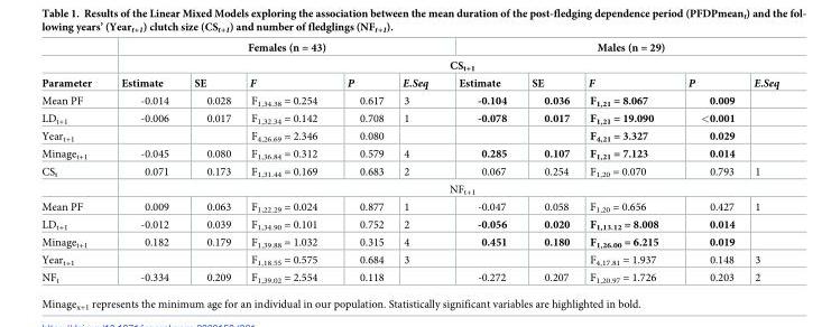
<table><thead><tr><td rowspan="3">Parameter</td><td colspan="5">Females (n = 43)</td><td colspan="5">Males (n = 29)</td></tr><tr><td colspan="10">CS<sub>t+1</sub></td></tr><tr><td>Estimate</td><td>SE</td><td>F</td><td>P</td><td>E.Seq</td><td>Estimate</td><td>SE</td><td>F</td><td>P</td><td>E.Seq</td></tr></thead><tbody><tr><td>Mean PF</td><td>-0.014</td><td>0.028</td><td>F<sub>1,34.38</sub> = 0.254</td><td>0.617</td><td>3</td><td>-0.104</td><td>0.036</td><td>F<sub>1,21</sub> = 8.067</td><td>0.009</td><td></td></tr><tr><td>LD<sub>t+1</sub></td><td>-0.006</td><td>0.017</td><td>F<sub>1,32.34</sub> = 0.142</td><td>0.708</td><td>1</td><td>-0.078</td><td>0.017</td><td>F<sub>1,21</sub> = 19.090</td><td>&lt;0.001</td><td></td></tr><tr><td>Year<sub>t+1</sub></td><td></td><td></td><td>F<sub>4,26.69</sub> = 2.346</td><td>0.080</td><td></td><td></td><td></td><td>F<sub>4,21</sub> = 3.327</td><td>0.029</td><td></td></tr><tr><td>Minage<sub>t+1</sub></td><td>-0.045</td><td>0.080</td><td>F<sub>1,36.84</sub> = 0.312</td><td>0.579</td><td>4</td><td>0.285</td><td>0.107</td><td>F<sub>1,21</sub> = 7.123</td><td>0.014</td><td></td></tr><tr><td rowspan="2">CS<sub>t</sub></td><td>0.071</td><td>0.173</td><td>F<sub>1,31.44</sub> = 0.169</td><td>0.683</td><td>2</td><td>0.067</td><td>0.254</td><td>F<sub>1,20</sub> = 0.070</td><td>0.793</td><td>1</td></tr><tr><td colspan="10">NF<sub>t+1</sub></td></tr><tr><td>Mean PF</td><td>0.009</td><td>0.063</td><td>F<sub>1,22.29</sub> = 0.024</td><td>0.877</td><td>1</td><td>-0.047</td><td>0.058</td><td>F<sub>1,20</sub> = 0.656</td><td>0.427</td><td>1</td></tr><tr><td>LD<sub>t+1</sub></td><td>-0.012</td><td>0.039</td><td>F<sub>1,34.90</sub> = 0.101</td><td>0.752</td><td>2</td><td>-0.056</td><td>0.020</td><td>F<sub>1,13.12</sub> = 8.008</td><td>0.014</td><td></td></tr><tr><td>Minage<sub>t+1</sub></td><td>0.182</td><td>0.179</td><td>F<sub>1,39.88</sub> = 1.032</td><td>0.315</td><td>4</td><td>0.451</td><td>0.180</td><td>F<sub>1,26.00</sub> = 6.215</td><td>0.019</td><td></td></tr><tr><td>Year<sub>t+1</sub></td><td></td><td></td><td>F<sub>1,18.55</sub> = 0.575</td><td>0.684</td><td>3</td><td></td><td></td><td>F<sub>4,17.81</sub> = 1.937</td><td>0.148</td><td>3</td></tr><tr><td>NF<sub>t</sub></td><td>-0.334</td><td>0.209</td><td>F<sub>1,39.02</sub> = 2.554</td><td>0.118</td><td></td><td>-0.272</td><td>0.207</td><td>F<sub>1,20.97</sub> = 1.726</td><td>0.203</td><td>2</td></tr></tbody></table>